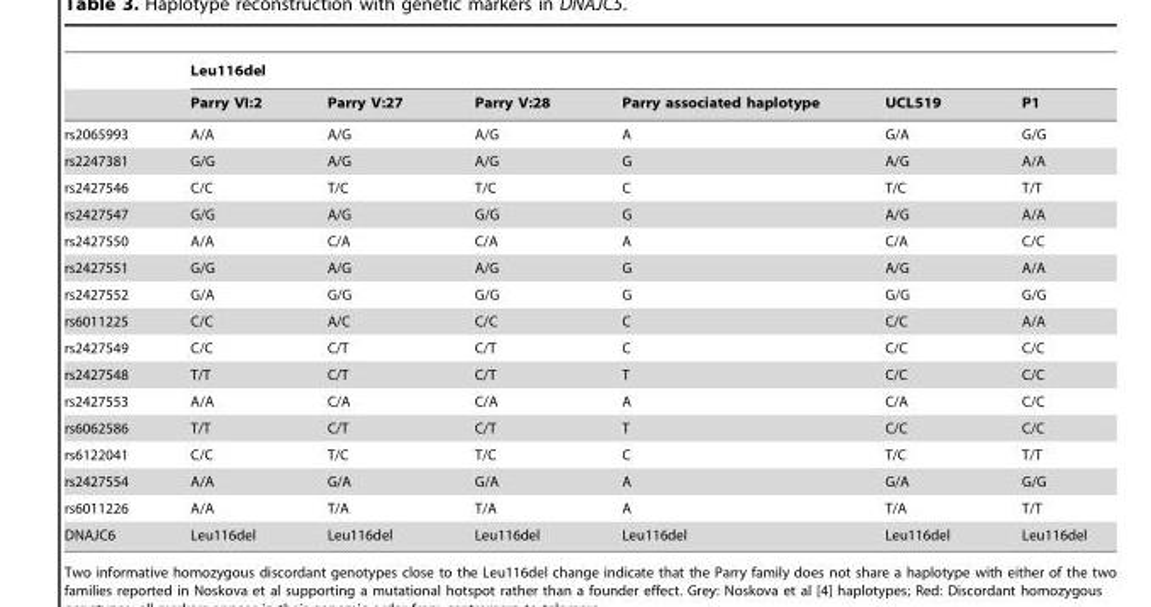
<table><thead><tr><td rowspan="2"></td><td colspan="6">Leu116del</td></tr><tr><td>Parry VI:2</td><td>Parry V:27</td><td>Parry V:28</td><td>Parry associated haplotype</td><td>UCL519</td><td>P1</td></tr></thead><tbody><tr><td>rs2065993</td><td>A/A</td><td>A/G</td><td>A/G</td><td>A</td><td>G/A</td><td>G/G</td></tr><tr><td>rs2247381</td><td>G/G</td><td>A/G</td><td>A/G</td><td>G</td><td>A/G</td><td>A/A</td></tr><tr><td>rs2427546</td><td>C/C</td><td>T/C</td><td>T/C</td><td>C</td><td>T/C</td><td>T/T</td></tr><tr><td>rs2427547</td><td>G/G</td><td>A/G</td><td>G/G</td><td>G</td><td>A/G</td><td>A/A</td></tr><tr><td>rs2427550</td><td>A/A</td><td>C/A</td><td>C/A</td><td>A</td><td>C/A</td><td>C/C</td></tr><tr><td>rs2427551</td><td>G/G</td><td>A/G</td><td>A/G</td><td>G</td><td>A/G</td><td>A/A</td></tr><tr><td>rs2427552</td><td>G/A</td><td>G/G</td><td>G/G</td><td>G</td><td>G/G</td><td>G/G</td></tr><tr><td>rs6011225</td><td>C/C</td><td>A/C</td><td>C/C</td><td>C</td><td>C/C</td><td>A/A</td></tr><tr><td>rs2427549</td><td>C/C</td><td>C/T</td><td>C/T</td><td>C</td><td>C/C</td><td>C/C</td></tr><tr><td>rs2427548</td><td>T/T</td><td>C/T</td><td>C/T</td><td>T</td><td>C/C</td><td>C/C</td></tr><tr><td>rs2427553</td><td>A/A</td><td>C/A</td><td>C/A</td><td>A</td><td>C/A</td><td>C/C</td></tr><tr><td>rs6062586</td><td>T/T</td><td>C/T</td><td>C/T</td><td>T</td><td>C/C</td><td>C/C</td></tr><tr><td>rs6122041</td><td>C/C</td><td>T/C</td><td>T/C</td><td>C</td><td>T/C</td><td>T/T</td></tr><tr><td>rs2427554</td><td>A/A</td><td>G/A</td><td>G/A</td><td>A</td><td>G/A</td><td>G/G</td></tr><tr><td>rs6011226</td><td>A/A</td><td>T/A</td><td>T/A</td><td>A</td><td>T/A</td><td>T/T</td></tr><tr><td>DNAJC6</td><td>Leu116del</td><td>Leu116del</td><td>Leu116del</td><td>Leu116del</td><td>Leu116del</td><td>Leu116del</td></tr></tbody></table>